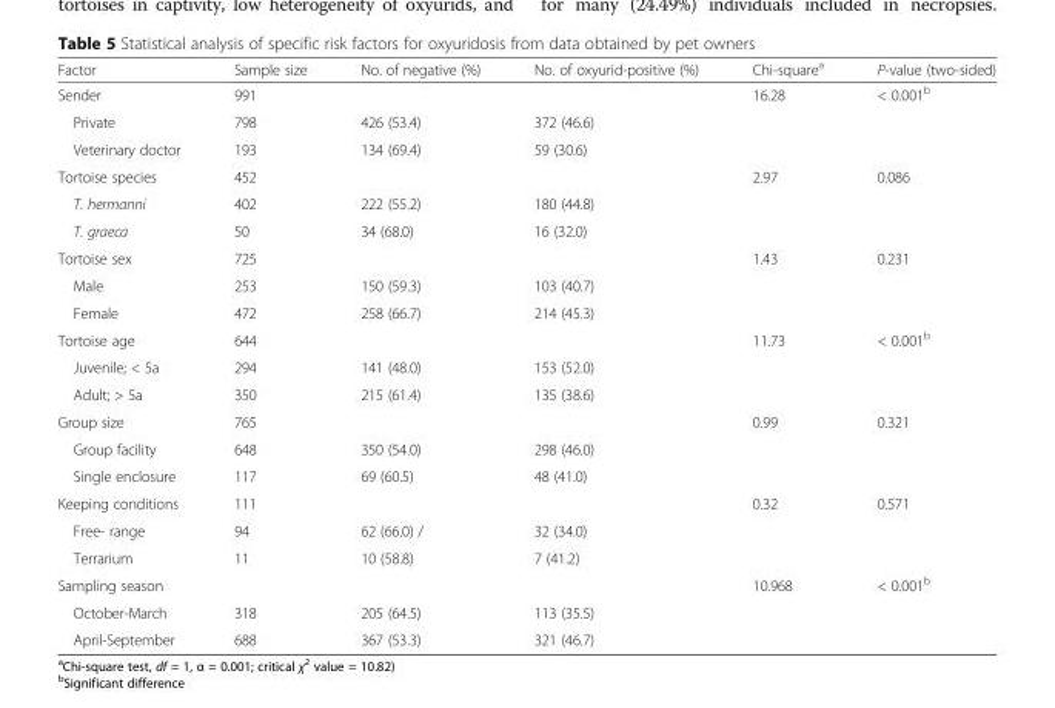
<table><thead><tr><td>Factor</td><td>Sample size</td><td>No. of negative (%)</td><td>No. of oxyurid-positive (%)</td><td>Chi-square<sup>a</sup></td><td>P-value (two-sided)</td></tr></thead><tbody><tr><td>Sender</td><td>991</td><td></td><td></td><td>16.28</td><td>&lt; 0.001<sup>b</sup></td></tr><tr><td>Private</td><td>798</td><td>426 (53.4)</td><td>372 (46.6)</td><td></td><td></td></tr><tr><td>Veterinary doctor</td><td>193</td><td>134 (69.4)</td><td>59 (30.6)</td><td></td><td></td></tr><tr><td>Tortoise species</td><td>452</td><td></td><td></td><td>2.97</td><td>0.086</td></tr><tr><td>T. hermanni</td><td>402</td><td>222 (55.2)</td><td>180 (44.8)</td><td></td><td></td></tr><tr><td>T. graeca</td><td>50</td><td>34 (68.0)</td><td>16 (32.0)</td><td></td><td></td></tr><tr><td>Tortoise sex</td><td>725</td><td></td><td></td><td>1.43</td><td>0.231</td></tr><tr><td>Male</td><td>253</td><td>150 (59.3)</td><td>103 (40.7)</td><td></td><td></td></tr><tr><td>Female</td><td>472</td><td>258 (66.7)</td><td>214 (45.3)</td><td></td><td></td></tr><tr><td>Tortoise age</td><td>644</td><td></td><td></td><td>11.73</td><td>&lt; 0.001<sup>b</sup></td></tr><tr><td>Juvenile; &lt; 5a</td><td>294</td><td>141 (48.0)</td><td>153 (52.0)</td><td></td><td></td></tr><tr><td>Adult; &gt; 5a</td><td>350</td><td>215 (61.4)</td><td>135 (38.6)</td><td></td><td></td></tr><tr><td>Group size</td><td>765</td><td></td><td></td><td>0.99</td><td>0.321</td></tr><tr><td>Group facility</td><td>648</td><td>350 (54.0)</td><td>298 (46.0)</td><td></td><td></td></tr><tr><td>Single enclosure</td><td>117</td><td>69 (60.5)</td><td>48 (41.0)</td><td></td><td></td></tr><tr><td>Keeping conditions</td><td>111</td><td></td><td></td><td>0.32</td><td>0.571</td></tr><tr><td>Free- range</td><td>94</td><td>62 (66.0) /</td><td>32 (34.0)</td><td></td><td></td></tr><tr><td>Terrarium</td><td>11</td><td>10 (58.8)</td><td>7 (41.2)</td><td></td><td></td></tr><tr><td>Sampling season</td><td></td><td></td><td></td><td>10.968</td><td>&lt; 0.001<sup>b</sup></td></tr><tr><td>October-March</td><td>318</td><td>205 (64.5)</td><td>113 (35.5)</td><td></td><td></td></tr><tr><td>April-September</td><td>688</td><td>367 (53.3)</td><td>321 (46.7)</td><td></td><td></td></tr></tbody></table>